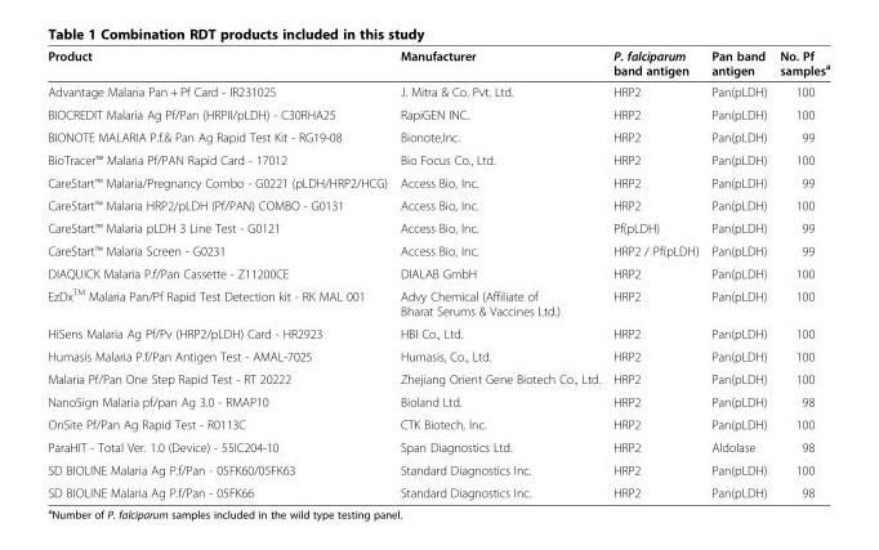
<table><thead><tr><td>Product</td><td>Manufacturer</td><td>P. falciparum band antigen</td><td>Pan band antigen</td><td>No. Pf samples<sup>a</sup></td></tr></thead><tbody><tr><td>Advantage Malaria Pan + Pf Card - IR231025</td><td>J. Mitra &amp; Co. Pvt. Ltd.</td><td>HRP2</td><td>Pan(pLDH)</td><td>100</td></tr><tr><td>BIOCREDIT Malaria Ag Pf/Pan (HRPII/pLDH) - C30RHA25</td><td>RapiGEN INC.</td><td>HRP2</td><td>Pan(pLDH)</td><td>100</td></tr><tr><td>BIONOTE MALARIA P.f.&amp; Pan Ag Rapid Test Kit - RG19-08</td><td>Bionote,Inc.</td><td>HRP2</td><td>Pan(pLDH)</td><td>99</td></tr><tr><td>BioTracer™ Malaria Pf/PAN Rapid Card - 17012</td><td>Bio Focus Co., Ltd.</td><td>HRP2</td><td>Pan(pLDH)</td><td>100</td></tr><tr><td>CareStart™ Malaria/Pregnancy Combo - G0221 (pLDH/HRP2/HCG)</td><td>Access Bio, Inc.</td><td>HRP2</td><td>Pan(pLDH)</td><td>99</td></tr><tr><td>CareStart™ Malaria HRP2/pLDH (Pf/PAN) COMBO - G0131</td><td>Access Bio, Inc.</td><td>HRP2</td><td>Pan(pLDH)</td><td>100</td></tr><tr><td>CareStart™ Malaria pLDH 3 Line Test - G0121</td><td>Access Bio, Inc.</td><td>Pf(pLDH)</td><td>Pan(pLDH)</td><td>99</td></tr><tr><td>CareStart™ Malaria Screen - G0231</td><td>Access Bio, Inc.</td><td>HRP2 / Pf(pLDH)</td><td>Pan(pLDH)</td><td>99</td></tr><tr><td>DIAQUICK Malaria P.f/Pan Cassette - Z11200CE</td><td>DIALAB GmbH</td><td>HRP2</td><td>Pan(pLDH)</td><td>100</td></tr><tr><td>EzDx<sup>TM</sup> Malaria Pan/Pf Rapid Test Detection kit - RK MAL 001</td><td>Advy Chemical (Affiliate of Bharat Serums &amp; Vaccines Ltd.)</td><td>HRP2</td><td>Pan(pLDH)</td><td>100</td></tr><tr><td>HiSens Malaria Ag Pf/Pv (HRP2/pLDH) Card - HR2923</td><td>HBI Co., Ltd.</td><td>HRP2</td><td>Pan(pLDH)</td><td>100</td></tr><tr><td>Humasis Malaria P.f/Pan Antigen Test - AMAL-7025</td><td>Humasis, Co., Ltd.</td><td>HRP2</td><td>Pan(pLDH)</td><td>100</td></tr><tr><td>Malaria Pf/Pan One Step Rapid Test - RT 20222</td><td>Zhejiang Orient Gene Biotech Co., Ltd.</td><td>HRP2</td><td>Pan(pLDH)</td><td>100</td></tr><tr><td>NanoSign Malaria pf/pan Ag 3.0 - RMAP10</td><td>Bioland Ltd.</td><td>HRP2</td><td>Pan(pLDH)</td><td>98</td></tr><tr><td>OnSite Pf/Pan Ag Rapid Test - R0113C</td><td>CTK Biotech, Inc.</td><td>HRP2</td><td>Pan(pLDH)</td><td>100</td></tr><tr><td>ParaHIT - Total Ver. 1.0 (Device) - 55IC204-10</td><td>Span Diagnostics Ltd.</td><td>HRP2</td><td>Aldolase</td><td>98</td></tr><tr><td>SD BIOLINE Malaria Ag P.f/Pan - 05FK60/05FK63</td><td>Standard Diagnostics Inc.</td><td>HRP2</td><td>Pan(pLDH)</td><td>100</td></tr><tr><td>SD BIOLINE Malaria Ag P.f/Pan - 05FK66</td><td>Standard Diagnostics Inc.</td><td>HRP2</td><td>Pan(pLDH)</td><td>98</td></tr></tbody></table>